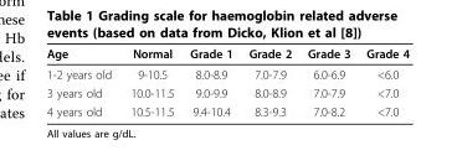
<table><thead><tr><td>Age</td><td>Normal</td><td>Grade 1</td><td>Grade 2</td><td>Grade 3</td><td>Grade 4</td></tr></thead><tbody><tr><td>1-2 years old</td><td>9-10.5</td><td>8.0-8.9</td><td>7.0-7.9</td><td>6.0-6.9</td><td>&lt;6.0</td></tr><tr><td>3 years old</td><td>10.0-11.5</td><td>9.0-9.9</td><td>8.0-8.9</td><td>7.0-7.9</td><td>&lt;7.0</td></tr><tr><td>4 years old</td><td>10.5-11.5</td><td>9.4-10.4</td><td>8.3-9.3</td><td>7.0-8.2</td><td>&lt;7.0</td></tr></tbody></table>